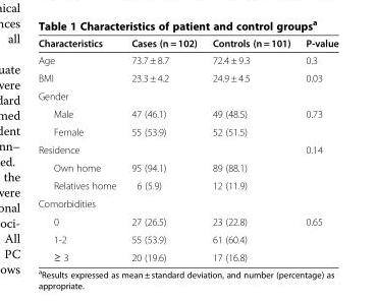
<table><thead><tr><td>Characteristics</td><td>Cases (n = 102)</td><td>Controls (n = 101)</td><td>P-value</td></tr></thead><tbody><tr><td>Age</td><td>73.7 ± 8.7</td><td>72.4 ± 9.3</td><td>0.3</td></tr><tr><td>BMI</td><td>23.3 ± 4.2</td><td>24.9 ± 4.5</td><td>0.03</td></tr><tr><td colspan="4">Gender</td></tr><tr><td>Male</td><td>47 (46.1)</td><td>49 (48.5)</td><td>0.73</td></tr><tr><td>Female</td><td>55 (53.9)</td><td>52 (51.5)</td><td></td></tr><tr><td>Residence</td><td></td><td></td><td>0.14</td></tr><tr><td>Own home</td><td>95 (94.1)</td><td>89 (88.1)</td><td></td></tr><tr><td>Relatives home</td><td>6 (5.9)</td><td>12 (11.9)</td><td></td></tr><tr><td colspan="4">Comorbidities</td></tr><tr><td>0</td><td>27 (26.5)</td><td>23 (22.8)</td><td>0.65</td></tr><tr><td>1-2</td><td>55 (53.9)</td><td>61 (60.4)</td><td></td></tr><tr><td>≥ 3</td><td>20 (19.6)</td><td>17 (16.8)</td><td></td></tr></tbody></table>